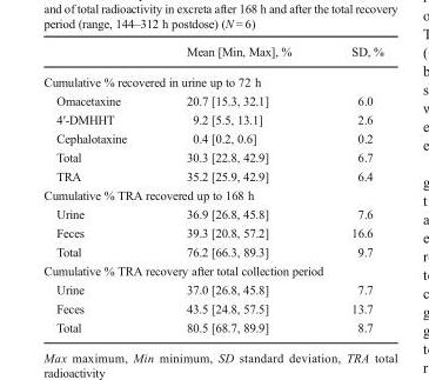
<table><thead><tr><td></td><td>Mean [Min, Max], %</td><td>SD, %</td></tr></thead><tbody><tr><td colspan="3">Cumulative % recovered in urine up to 72 h</td></tr><tr><td>Omacetaxine</td><td>20.7 [15.3, 32.1]</td><td>6.0</td></tr><tr><td>4′-DMHHT</td><td>9.2 [5.5, 13.1]</td><td>2.6</td></tr><tr><td>Cephalotaxine</td><td>0.4 [0.2, 0.6]</td><td>0.2</td></tr><tr><td>Total</td><td>30.3 [22.8, 42.9]</td><td>6.7</td></tr><tr><td>TRA</td><td>35.2 [25.9, 42.9]</td><td>6.4</td></tr><tr><td colspan="3">Cumulative % TRA recovered up to 168 h</td></tr><tr><td>Urine</td><td>36.9 [26.8, 45.8]</td><td>7.6</td></tr><tr><td>Feces</td><td>39.3 [20.8, 57.2]</td><td>16.6</td></tr><tr><td>Total</td><td>76.2 [66.3, 89.3]</td><td>9.7</td></tr><tr><td colspan="3">Cumulative % TRA recovery after total collection period</td></tr><tr><td>Urine</td><td>37.0 [26.8, 45.8]</td><td>7.7</td></tr><tr><td>Feces</td><td>43.5 [24.8, 57.5]</td><td>13.7</td></tr><tr><td>Total</td><td>80.5 [68.7, 89.9]</td><td>8.7</td></tr></tbody></table>